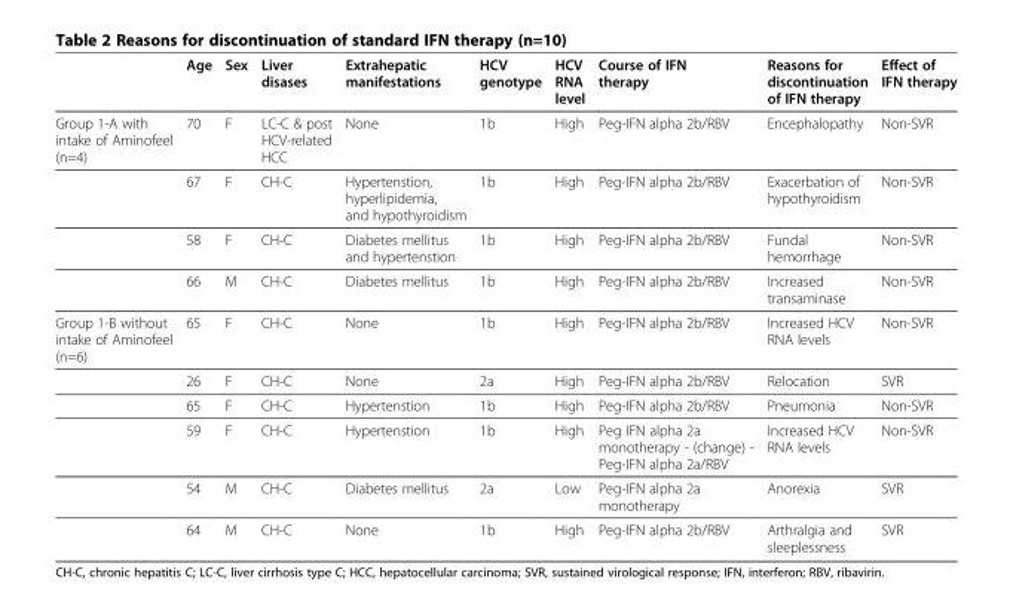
<table><thead><tr><td></td><td>Age</td><td>Sex</td><td>Liver disases</td><td>Extrahepatic manifestations</td><td>HCV genotype</td><td>HCV RNA level</td><td>Course of IFN therapy</td><td>Reasons for discontinuation of IFN therapy</td><td>Effect of IFN therapy</td></tr></thead><tbody><tr><td rowspan="4">Group 1-A with intake of Aminofeel (n=4)</td><td>70</td><td>F</td><td>LC-C &amp; post HCV-related HCC</td><td>None</td><td>1b</td><td>High</td><td>Peg-IFN alpha 2b/RBV</td><td>Encephalopathy</td><td>Non-SVR</td></tr><tr><td>67</td><td>F</td><td>CH-C</td><td>Hypertenstion, hyperlipidemia, and hypothyroidism</td><td>1b</td><td>High</td><td>Peg-IFN alpha 2b/RBV</td><td>Exacerbation of hypothyroidism</td><td>Non-SVR</td></tr><tr><td>58</td><td>F</td><td>CH-C</td><td>Diabetes mellitus and hypertenstion</td><td>1b</td><td>High</td><td>Peg-IFN alpha 2b/RBV</td><td>Fundal hemorrhage</td><td>Non-SVR</td></tr><tr><td>66</td><td>M</td><td>CH-C</td><td>Diabetes mellitus</td><td>1b</td><td>High</td><td>Peg-IFN alpha 2b/RBV</td><td>Increased transaminase</td><td>Non-SVR</td></tr><tr><td rowspan="6">Group 1-B without intake of Aminofeel (n=6)</td><td>65</td><td>F</td><td>CH-C</td><td>None</td><td>1b</td><td>High</td><td>Peg-IFN alpha 2b/RBV</td><td>Increased HCV RNA levels</td><td>Non-SVR</td></tr><tr><td>26</td><td>F</td><td>CH-C</td><td>None</td><td>2a</td><td>High</td><td>Peg-IFN alpha 2b/RBV</td><td>Relocation</td><td>SVR</td></tr><tr><td>65</td><td>F</td><td>CH-C</td><td>Hypertenstion</td><td>1b</td><td>High</td><td>Peg-IFN alpha 2b/RBV</td><td>Pneumonia</td><td>Non-SVR</td></tr><tr><td>59</td><td>F</td><td>CH-C</td><td>Hypertenstion</td><td>1b</td><td>High</td><td>Peg IFN alpha 2a monotherapy - (change) - Peg-IFN alpha 2a/RBV</td><td>Increased HCV RNA levels</td><td>Non-SVR</td></tr><tr><td>54</td><td>M</td><td>CH-C</td><td>Diabetes mellitus</td><td>2a</td><td>Low</td><td>Peg-IFN alpha 2a monotherapy</td><td>Anorexia</td><td>SVR</td></tr><tr><td>64</td><td>M</td><td>CH-C</td><td>None</td><td>1b</td><td>High</td><td>Peg-IFN alpha 2b/RBV</td><td>Arthralgia and sleeplessness</td><td>SVR</td></tr></tbody></table>